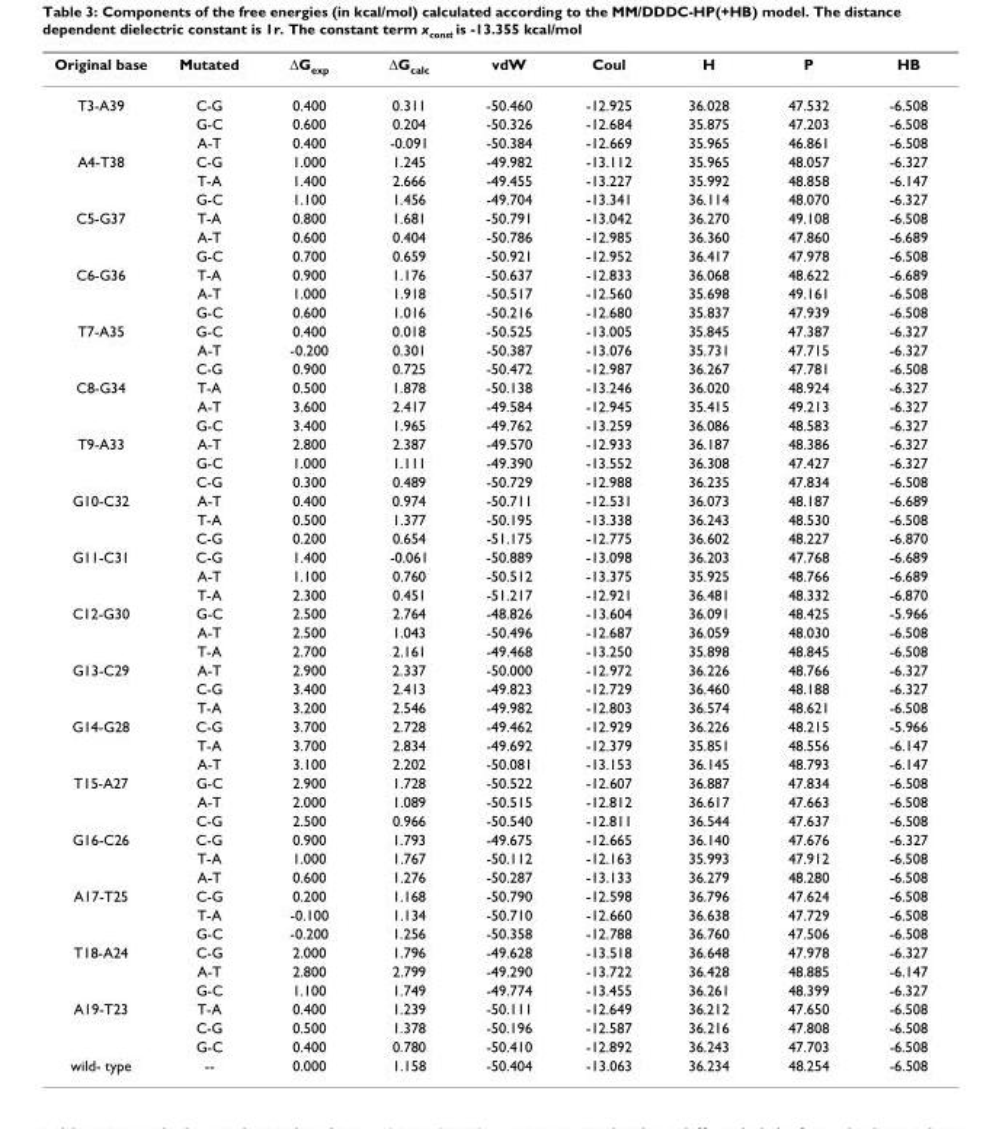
<table><thead><tr><td>Original base</td><td>Mutated</td><td>ΔG<sub>exp</sub></td><td>ΔG<sub>calc</sub></td><td>vdW</td><td>Coul</td><td>H</td><td>P</td><td>HB</td></tr></thead><tbody><tr><td rowspan="3">T3-A39</td><td>C-G</td><td>0.400</td><td>0.311</td><td>-50.460</td><td>-12.925</td><td>36.028</td><td>47.532</td><td>-6.508</td></tr><tr><td>G-C</td><td>0.600</td><td>0.204</td><td>-50.326</td><td>-12.684</td><td>35.875</td><td>47.203</td><td>-6.508</td></tr><tr><td>A-T</td><td>0.400</td><td>-0.091</td><td>-50.384</td><td>-12.669</td><td>35.965</td><td>46.861</td><td>-6.508</td></tr><tr><td rowspan="3">A4-T38</td><td>C-G</td><td>1.000</td><td>1.245</td><td>-49.982</td><td>-13.112</td><td>35.965</td><td>48.057</td><td>-6.327</td></tr><tr><td>T-A</td><td>1.400</td><td>2.666</td><td>-49.455</td><td>-13.227</td><td>35.992</td><td>48.858</td><td>-6.147</td></tr><tr><td>G-C</td><td>1.100</td><td>1.456</td><td>-49.704</td><td>-13.341</td><td>36.114</td><td>48.070</td><td>-6.327</td></tr><tr><td rowspan="3">C5-G37</td><td>T-A</td><td>0.800</td><td>1.681</td><td>-50.791</td><td>-13.042</td><td>36.270</td><td>49.108</td><td>-6.508</td></tr><tr><td>A-T</td><td>0.600</td><td>0.404</td><td>-50.786</td><td>-12.985</td><td>36.360</td><td>47.860</td><td>-6.689</td></tr><tr><td>G-C</td><td>0.700</td><td>0.659</td><td>-50.921</td><td>-12.952</td><td>36.417</td><td>47.978</td><td>-6.508</td></tr><tr><td rowspan="3">C6-G36</td><td>T-A</td><td>0.900</td><td>1.176</td><td>-50.637</td><td>-12.833</td><td>36.068</td><td>48.622</td><td>-6.689</td></tr><tr><td>A-T</td><td>1.000</td><td>1.918</td><td>-50.517</td><td>-12.560</td><td>35.698</td><td>49.161</td><td>-6.508</td></tr><tr><td>G-C</td><td>0.600</td><td>1.016</td><td>-50.216</td><td>-12.680</td><td>35.837</td><td>47.939</td><td>-6.508</td></tr><tr><td rowspan="3">T7-A35</td><td>G-C</td><td>0.400</td><td>0.018</td><td>-50.525</td><td>-13.005</td><td>35.845</td><td>47.387</td><td>-6.327</td></tr><tr><td>A-T</td><td>-0.200</td><td>0.301</td><td>-50.387</td><td>-13.076</td><td>35.731</td><td>47.715</td><td>-6.327</td></tr><tr><td>C-G</td><td>0.900</td><td>0.725</td><td>-50.472</td><td>-12.987</td><td>36.267</td><td>47.781</td><td>-6.508</td></tr><tr><td rowspan="3">C8-G34</td><td>T-A</td><td>0.500</td><td>1.878</td><td>-50.138</td><td>-13.246</td><td>36.020</td><td>48.924</td><td>-6.327</td></tr><tr><td>A-T</td><td>3.600</td><td>2.417</td><td>-49.584</td><td>-12.945</td><td>35.415</td><td>49.213</td><td>-6.327</td></tr><tr><td>G-C</td><td>3.400</td><td>1.965</td><td>-49.762</td><td>-13.259</td><td>36.086</td><td>48.583</td><td>-6.327</td></tr><tr><td rowspan="3">T9-A33</td><td>A-T</td><td>2.800</td><td>2.387</td><td>-49.570</td><td>-12.933</td><td>36.187</td><td>48.386</td><td>-6.327</td></tr><tr><td>G-C</td><td>1.000</td><td>1.111</td><td>-49.390</td><td>-13.552</td><td>36.308</td><td>47.427</td><td>-6.327</td></tr><tr><td>C-G</td><td>0.300</td><td>0.489</td><td>-50.729</td><td>-12.988</td><td>36.235</td><td>47.834</td><td>-6.508</td></tr><tr><td rowspan="3">G10-C32</td><td>A-T</td><td>0.400</td><td>0.974</td><td>-50.711</td><td>-12.531</td><td>36.073</td><td>48.187</td><td>-6.689</td></tr><tr><td>T-A</td><td>0.500</td><td>1.377</td><td>-50.195</td><td>-13.338</td><td>36.243</td><td>48.530</td><td>-6.508</td></tr><tr><td>C-G</td><td>0.200</td><td>0.654</td><td>-51.175</td><td>-12.775</td><td>36.602</td><td>48.227</td><td>-6.870</td></tr><tr><td rowspan="3">G11-C31</td><td>C-G</td><td>1.400</td><td>-0.061</td><td>-50.889</td><td>-13.098</td><td>36.203</td><td>47.768</td><td>-6.689</td></tr><tr><td>A-T</td><td>1.100</td><td>0.760</td><td>-50.512</td><td>-13.375</td><td>35.925</td><td>48.766</td><td>-6.689</td></tr><tr><td>T-A</td><td>2.300</td><td>0.451</td><td>-51.217</td><td>-12.921</td><td>36.481</td><td>48.332</td><td>-6.870</td></tr><tr><td rowspan="3">C12-G30</td><td>G-C</td><td>2.500</td><td>2.764</td><td>-48.826</td><td>-13.604</td><td>36.091</td><td>48.425</td><td>-5.966</td></tr><tr><td>A-T</td><td>2.500</td><td>1.043</td><td>-50.496</td><td>-12.687</td><td>36.059</td><td>48.030</td><td>-6.508</td></tr><tr><td>T-A</td><td>2.700</td><td>2.161</td><td>-49.468</td><td>-13.250</td><td>35.898</td><td>48.845</td><td>-6.508</td></tr><tr><td rowspan="3">G13-C29</td><td>A-T</td><td>2.900</td><td>2.337</td><td>-50.000</td><td>-12.972</td><td>36.226</td><td>48.766</td><td>-6.327</td></tr><tr><td>C-G</td><td>3.400</td><td>2.413</td><td>-49.823</td><td>-12.729</td><td>36.460</td><td>48.188</td><td>-6.327</td></tr><tr><td>T-A</td><td>3.200</td><td>2.546</td><td>-49.982</td><td>-12.803</td><td>36.574</td><td>48.621</td><td>-6.508</td></tr><tr><td rowspan="3">G14-G28</td><td>C-G</td><td>3.700</td><td>2.728</td><td>-49.462</td><td>-12.929</td><td>36.226</td><td>48.215</td><td>-5.966</td></tr><tr><td>T-A</td><td>3.700</td><td>2.834</td><td>-49.692</td><td>-12.379</td><td>35.851</td><td>48.556</td><td>-6.147</td></tr><tr><td>A-T</td><td>3.100</td><td>2.202</td><td>-50.081</td><td>-13.153</td><td>36.145</td><td>48.793</td><td>-6.147</td></tr><tr><td rowspan="3">T15-A27</td><td>G-C</td><td>2.900</td><td>1.728</td><td>-50.522</td><td>-12.607</td><td>36.887</td><td>47.834</td><td>-6.508</td></tr><tr><td>A-T</td><td>2.000</td><td>1.089</td><td>-50.515</td><td>-12.812</td><td>36.617</td><td>47.663</td><td>-6.508</td></tr><tr><td>C-G</td><td>2.500</td><td>0.966</td><td>-50.540</td><td>-12.811</td><td>36.544</td><td>47.637</td><td>-6.508</td></tr><tr><td rowspan="3">G16-C26</td><td>C-G</td><td>0.900</td><td>1.793</td><td>-49.675</td><td>-12.665</td><td>36.140</td><td>47.676</td><td>-6.327</td></tr><tr><td>T-A</td><td>1.000</td><td>1.767</td><td>-50.112</td><td>-12.163</td><td>35.993</td><td>47.912</td><td>-6.508</td></tr><tr><td>A-T</td><td>0.600</td><td>1.276</td><td>-50.287</td><td>-13.133</td><td>36.279</td><td>48.280</td><td>-6.508</td></tr><tr><td rowspan="3">A17-T25</td><td>C-G</td><td>0.200</td><td>1.168</td><td>-50.790</td><td>-12.598</td><td>36.796</td><td>47.624</td><td>-6.508</td></tr><tr><td>T-A</td><td>-0.100</td><td>1.134</td><td>-50.710</td><td>-12.660</td><td>36.638</td><td>47.729</td><td>-6.508</td></tr><tr><td>G-C</td><td>-0.200</td><td>1.256</td><td>-50.358</td><td>-12.788</td><td>36.760</td><td>47.506</td><td>-6.508</td></tr><tr><td rowspan="3">T18-A24</td><td>C-G</td><td>2.000</td><td>1.796</td><td>-49.628</td><td>-13.518</td><td>36.648</td><td>47.978</td><td>-6.327</td></tr><tr><td>A-T</td><td>2.800</td><td>2.799</td><td>-49.290</td><td>-13.722</td><td>36.428</td><td>48.885</td><td>-6.147</td></tr><tr><td>G-C</td><td>1.100</td><td>1.749</td><td>-49.774</td><td>-13.455</td><td>36.261</td><td>48.399</td><td>-6.327</td></tr><tr><td rowspan="3">A19-T23</td><td>T-A</td><td>0.400</td><td>1.239</td><td>-50.111</td><td>-12.649</td><td>36.212</td><td>47.650</td><td>-6.508</td></tr><tr><td>C-G</td><td>0.500</td><td>1.378</td><td>-50.196</td><td>-12.587</td><td>36.216</td><td>47.808</td><td>-6.508</td></tr><tr><td>G-C</td><td>0.400</td><td>0.780</td><td>-50.410</td><td>-12.892</td><td>36.243</td><td>47.703</td><td>-6.508</td></tr><tr><td>wild- type</td><td>--</td><td>0.000</td><td>1.158</td><td>-50.404</td><td>-13.063</td><td>36.234</td><td>48.254</td><td>-6.508</td></tr></tbody></table>